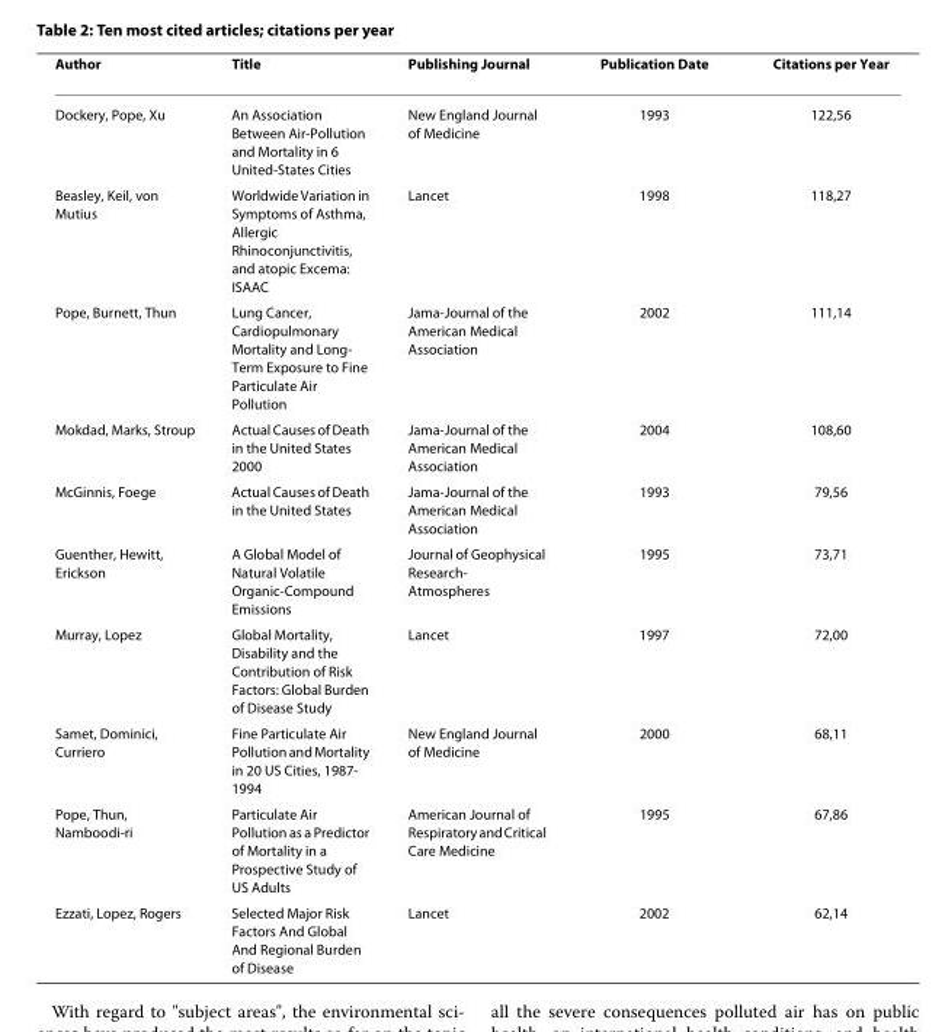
<table><thead><tr><td>Author</td><td>Title</td><td>Publishing Journal</td><td>Publication Date</td><td>Citations per Year</td></tr></thead><tbody><tr><td>Dockery, Pope, Xu</td><td>An Association Between Air-Pollution and Mortality in 6 United-States Cities</td><td>New England Journal of Medicine</td><td>1993</td><td>122,56</td></tr><tr><td>Beasley, Keil, von Mutius</td><td>Worldwide Variation in Symptoms of Asthma, Allergic Rhinoconjunctivitis, and atopic Excema: ISAAC</td><td>Lancet</td><td>1998</td><td>118,27</td></tr><tr><td>Pope, Burnett, Thun</td><td>Lung Cancer, Cardiopulmonary Mortality and Long- Term Exposure to Fine Particulate Air Pollution</td><td>Jama-Journal of the American Medical Association</td><td>2002</td><td>111,14</td></tr><tr><td>Mokdad, Marks, Stroup</td><td>Actual Causes of Death in the United States 2000</td><td>Jama-Journal of the American Medical Association</td><td>2004</td><td>108,60</td></tr><tr><td>McGinnis, Foege</td><td>Actual Causes of Death in the United States</td><td>Jama-Journal of the American Medical Association</td><td>1993</td><td>79,56</td></tr><tr><td>Guenther, Hewitt, Erickson</td><td>A Global Model of Natural Volatile Organic-Compound Emissions</td><td>Journal of Geophysical Research- Atmospheres</td><td>1995</td><td>73,71</td></tr><tr><td>Murray, Lopez</td><td>Global Mortality, Disability and the Contribution of Risk Factors: Global Burden of Disease Study</td><td>Lancet</td><td>1997</td><td>72,00</td></tr><tr><td>Samet, Dominici, Curriero</td><td>Fine Particulate Air Pollution and Mortality in 20 US Cities, 1987- 1994</td><td>New England Journal of Medicine</td><td>2000</td><td>68,11</td></tr><tr><td>Pope, Thun, Namboodi-ri</td><td>Particulate Air Pollution as a Predictor of Mortality in a Prospective Study of US Adults</td><td>American Journal of Respiratory and Critical Care Medicine</td><td>1995</td><td>67,86</td></tr><tr><td>Ezzati, Lopez, Rogers</td><td>Selected Major Risk Factors And Global And Regional Burden of Disease</td><td>Lancet</td><td>2002</td><td>62,14</td></tr></tbody></table>